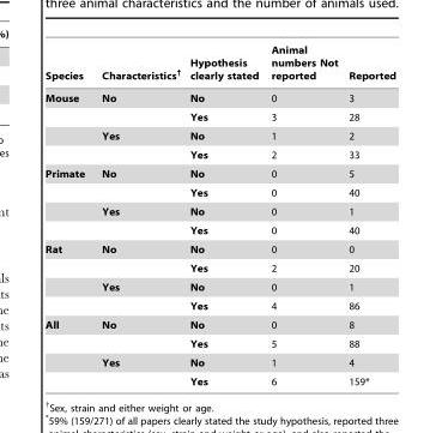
<table><thead><tr><td>Species</td><td>Characteristics†</td><td>Hypothesis clearly stated</td><td>Animal numbers Not reported</td><td>Reported</td></tr></thead><tbody><tr><td rowspan="4">Mouse</td><td>No</td><td>No</td><td>0</td><td>3</td></tr><tr><td></td><td>Yes</td><td>3</td><td>28</td></tr><tr><td>Yes</td><td>No</td><td>1</td><td>2</td></tr><tr><td></td><td>Yes</td><td>2</td><td>33</td></tr><tr><td rowspan="4">Primate</td><td>No</td><td>No</td><td>0</td><td>5</td></tr><tr><td></td><td>Yes</td><td>0</td><td>40</td></tr><tr><td>Yes</td><td>No</td><td>0</td><td>1</td></tr><tr><td></td><td>Yes</td><td>0</td><td>40</td></tr><tr><td rowspan="4">Rat</td><td>No</td><td>No</td><td>0</td><td>0</td></tr><tr><td></td><td>Yes</td><td>2</td><td>20</td></tr><tr><td>Yes</td><td>No</td><td>0</td><td>1</td></tr><tr><td></td><td>Yes</td><td>4</td><td>86</td></tr><tr><td rowspan="4">All</td><td>No</td><td>No</td><td>0</td><td>8</td></tr><tr><td></td><td>Yes</td><td>5</td><td>88</td></tr><tr><td>Yes</td><td>No</td><td>1</td><td>4</td></tr><tr><td></td><td>Yes</td><td>6</td><td>159*</td></tr></tbody></table>